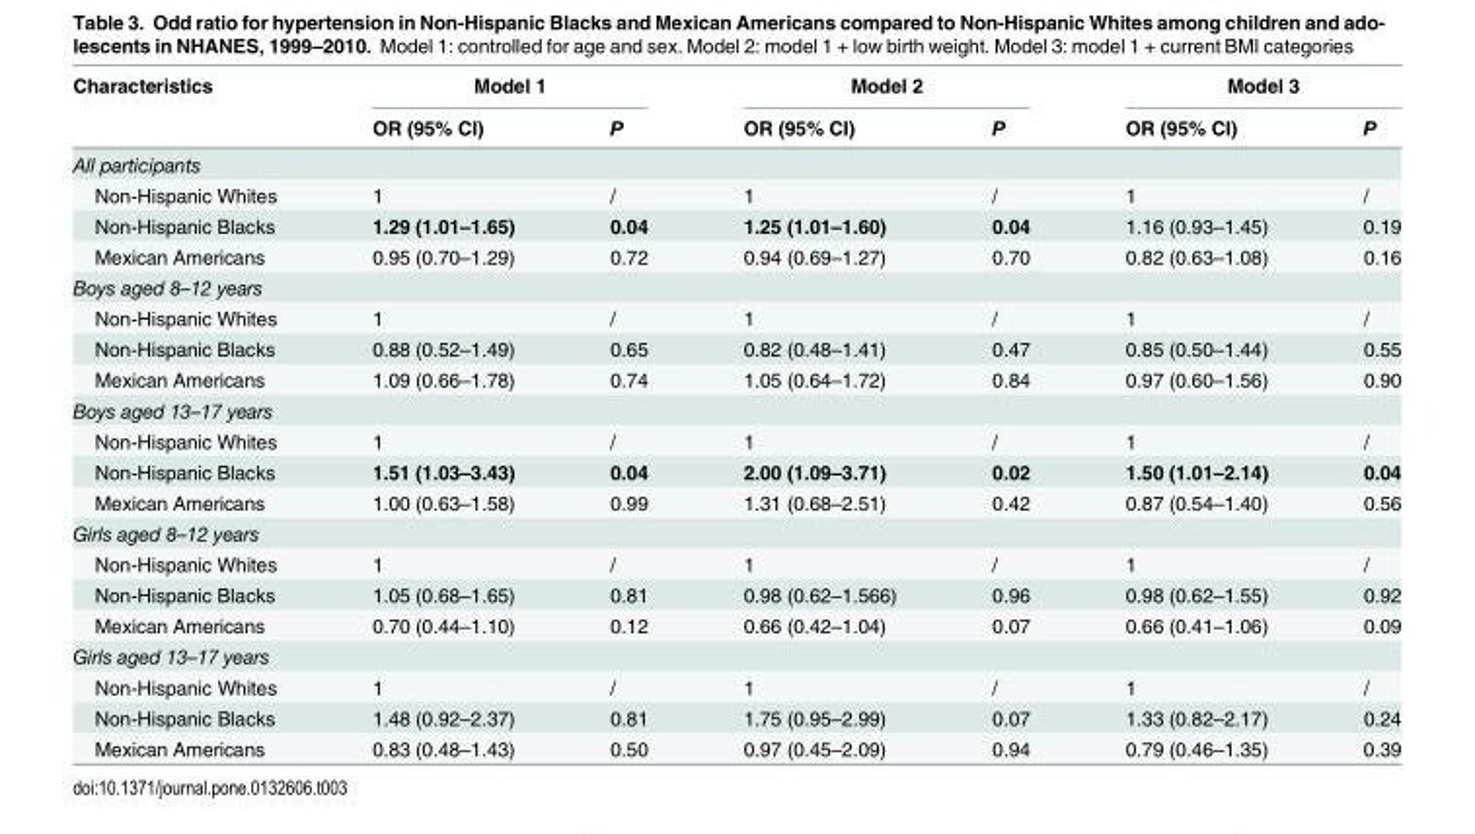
<table><thead><tr><td rowspan="2">Characteristics</td><td colspan="2">Model 1</td><td colspan="2">Model 2</td><td colspan="2">Model 3</td></tr><tr><td>OR (95% CI)</td><td>P</td><td>OR (95% CI)</td><td>P</td><td>OR (95% CI)</td><td>P</td></tr></thead><tbody><tr><td colspan="7">All participants</td></tr><tr><td>Non-Hispanic Whites</td><td>1</td><td>/</td><td>1</td><td>/</td><td>1</td><td>/</td></tr><tr><td>Non-Hispanic Blacks</td><td>1.29 (1.01–1.65)</td><td>0.04</td><td>1.25 (1.01–1.60)</td><td>0.04</td><td>1.16 (0.93–1.45)</td><td>0.19</td></tr><tr><td>Mexican Americans</td><td>0.95 (0.70–1.29)</td><td>0.72</td><td>0.94 (0.69–1.27)</td><td>0.70</td><td>0.82 (0.63–1.08)</td><td>0.16</td></tr><tr><td colspan="7">Boys aged 8–12 years</td></tr><tr><td>Non-Hispanic Whites</td><td>1</td><td>/</td><td>1</td><td>/</td><td>1</td><td>/</td></tr><tr><td>Non-Hispanic Blacks</td><td>0.88 (0.52–1.49)</td><td>0.65</td><td>0.82 (0.48–1.41)</td><td>0.47</td><td>0.85 (0.50–1.44)</td><td>0.55</td></tr><tr><td>Mexican Americans</td><td>1.09 (0.66–1.78)</td><td>0.74</td><td>1.05 (0.64–1.72)</td><td>0.84</td><td>0.97 (0.60–1.56)</td><td>0.90</td></tr><tr><td colspan="7">Boys aged 13–17 years</td></tr><tr><td>Non-Hispanic Whites</td><td>1</td><td>/</td><td>1</td><td>/</td><td>1</td><td>/</td></tr><tr><td>Non-Hispanic Blacks</td><td>1.51 (1.03–3.43)</td><td>0.04</td><td>2.00 (1.09–3.71)</td><td>0.02</td><td>1.50 (1.01–2.14)</td><td>0.04</td></tr><tr><td>Mexican Americans</td><td>1.00 (0.63–1.58)</td><td>0.99</td><td>1.31 (0.68–2.51)</td><td>0.42</td><td>0.87 (0.54–1.40)</td><td>0.56</td></tr><tr><td colspan="7">Girls aged 8–12 years</td></tr><tr><td>Non-Hispanic Whites</td><td>1</td><td>/</td><td>1</td><td>/</td><td>1</td><td>/</td></tr><tr><td>Non-Hispanic Blacks</td><td>1.05 (0.68–1.65)</td><td>0.81</td><td>0.98 (0.62–1.566)</td><td>0.96</td><td>0.98 (0.62–1.55)</td><td>0.92</td></tr><tr><td>Mexican Americans</td><td>0.70 (0.44–1.10)</td><td>0.12</td><td>0.66 (0.42–1.04)</td><td>0.07</td><td>0.66 (0.41–1.06)</td><td>0.09</td></tr><tr><td colspan="7">Girls aged 13–17 years</td></tr><tr><td>Non-Hispanic Whites</td><td>1</td><td>/</td><td>1</td><td>/</td><td>1</td><td>/</td></tr><tr><td>Non-Hispanic Blacks</td><td>1.48 (0.92–2.37)</td><td>0.81</td><td>1.75 (0.95–2.99)</td><td>0.07</td><td>1.33 (0.82–2.17)</td><td>0.24</td></tr><tr><td>Mexican Americans</td><td>0.83 (0.48–1.43)</td><td>0.50</td><td>0.97 (0.45–2.09)</td><td>0.94</td><td>0.79 (0.46–1.35)</td><td>0.39</td></tr></tbody></table>